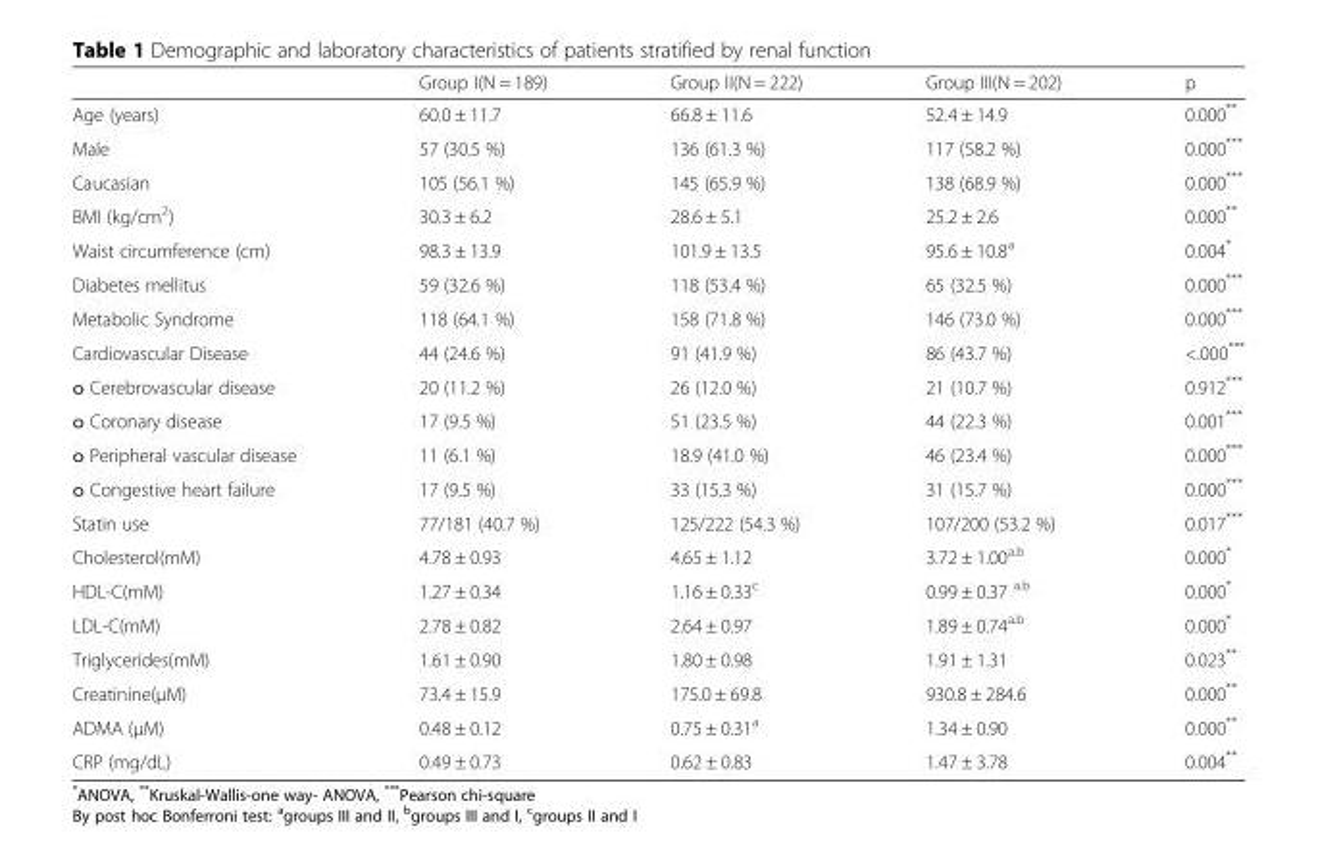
<table><thead><tr><td></td><td>Group I(N = 189)</td><td>Group II(N = 222)</td><td>Group III(N = 202)</td><td>p</td></tr></thead><tbody><tr><td>Age (years)</td><td>60.0 ± 11.7</td><td>66.8 ± 11.6</td><td>52.4 ± 14.9</td><td>0.000**</td></tr><tr><td>Male</td><td>57 (30.5 %)</td><td>136 (61.3 %)</td><td>117 (58.2 %)</td><td>0.000***</td></tr><tr><td>Caucasian</td><td>105 (56.1 %)</td><td>145 (65.9 %)</td><td>138 (68.9 %)</td><td>0.000***</td></tr><tr><td>BMI (kg/cm<sup>2</sup>)</td><td>30.3 ± 6.2</td><td>28.6 ± 5.1</td><td>25.2 ± 2.6</td><td>0.000**</td></tr><tr><td>Waist circumference (cm)</td><td>98.3 ± 13.9</td><td>101.9 ± 13.5</td><td>95.6 ± 10.8<sup>a</sup></td><td>0.004*</td></tr><tr><td>Diabetes mellitus</td><td>59 (32.6 %)</td><td>118 (53.4 %)</td><td>65 (32.5 %)</td><td>0.000***</td></tr><tr><td>Metabolic Syndrome</td><td>118 (64.1 %)</td><td>158 (71.8 %)</td><td>146 (73.0 %)</td><td>0.000***</td></tr><tr><td>Cardiovascular Disease</td><td>44 (24.6 %)</td><td>91 (41.9 %)</td><td>86 (43.7 %)</td><td>&lt;.000***</td></tr><tr><td>o Cerebrovascular disease</td><td>20 (11.2 %)</td><td>26 (12.0 %)</td><td>21 (10.7 %)</td><td>0.912***</td></tr><tr><td>o Coronary disease</td><td>17 (9.5 %)</td><td>51 (23.5 %)</td><td>44 (22.3 %)</td><td>0.001***</td></tr><tr><td>o Peripheral vascular disease</td><td>11 (6.1 %)</td><td>18.9 (41.0 %)</td><td>46 (23.4 %)</td><td>0.000***</td></tr><tr><td>o Congestive heart failure</td><td>17 (9.5 %)</td><td>33 (15.3 %)</td><td>31 (15.7 %)</td><td>0.000***</td></tr><tr><td>Statin use</td><td>77/181 (40.7 %)</td><td>125/222 (54.3 %)</td><td>107/200 (53.2 %)</td><td>0.017***</td></tr><tr><td>Cholesterol(mM)</td><td>4.78 ± 0.93</td><td>4.65 ± 1.12</td><td>3.72 ± 1.00<sup>a.b</sup></td><td>0.000*</td></tr><tr><td>HDL-C(mM)</td><td>1.27 ± 0.34</td><td>1.16 ± 0.33<sup>c</sup></td><td>0.99 ± 0.37 <sup>a.b</sup></td><td>0.000*</td></tr><tr><td>LDL-C(mM)</td><td>2.78 ± 0.82</td><td>2.64 ± 0.97</td><td>1.89 ± 0.74<sup>a.b</sup></td><td>0.000*</td></tr><tr><td>Triglycerides(mM)</td><td>1.61 ± 0.90</td><td>1.80 ± 0.98</td><td>1.91 ± 1.31</td><td>0.023**</td></tr><tr><td>Creatinine(μM)</td><td>73.4 ± 15.9</td><td>175.0 ± 69.8</td><td>930.8 ± 284.6</td><td>0.000**</td></tr><tr><td>ADMA (μM)</td><td>0.48 ± 0.12</td><td>0.75 ± 0.31<sup>a</sup></td><td>1.34 ± 0.90</td><td>0.000**</td></tr><tr><td>CRP (mg/dL)</td><td>0.49 ± 0.73</td><td>0.62 ± 0.83</td><td>1.47 ± 3.78</td><td>0.004**</td></tr></tbody></table>